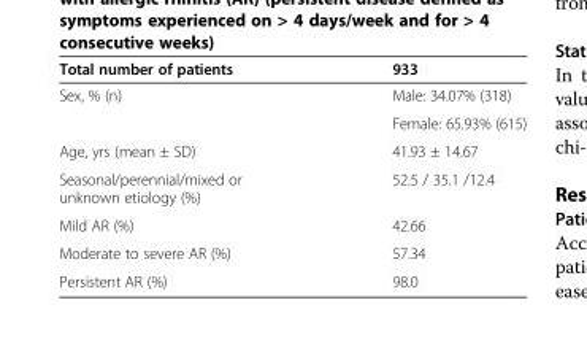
<table><thead><tr><td>Total number of patients</td><td>933</td></tr></thead><tbody><tr><td rowspan="2">Sex, % (n)</td><td>Male: 34.07% (318)</td></tr><tr><td>Female: 65.93% (615)</td></tr><tr><td>Age, yrs (mean ± SD)</td><td>41.93 ± 14.67</td></tr><tr><td>Seasonal/perennial/mixed or unknown etiology (%)</td><td>52.5 / 35.1 /12.4</td></tr><tr><td>Mild AR (%)</td><td>42.66</td></tr><tr><td>Moderate to severe AR (%)</td><td>57.34</td></tr><tr><td>Persistent AR (%)</td><td>98.0</td></tr></tbody></table>